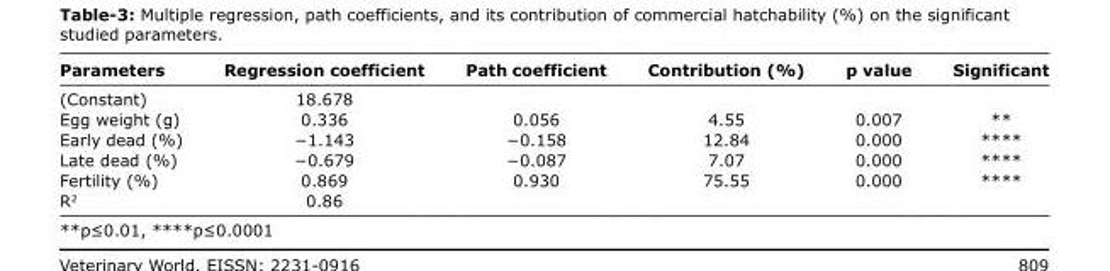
<table><thead><tr><td>Parameters</td><td>Regression coefficient</td><td>Path coefficient</td><td>Contribution (%)</td><td>p value</td><td>Significant</td></tr></thead><tbody><tr><td>(Constant)</td><td>18.678</td><td></td><td></td><td></td><td></td></tr><tr><td>Egg weight (g)</td><td>0.336</td><td>0.056</td><td>4.55</td><td>0.007</td><td>**</td></tr><tr><td>Early dead (%)</td><td>−1.143</td><td>−0.158</td><td>12.84</td><td>0.000</td><td>****</td></tr><tr><td>Late dead (%)</td><td>−0.679</td><td>−0.087</td><td>7.07</td><td>0.000</td><td>****</td></tr><tr><td>Fertility (%)</td><td>0.869</td><td>0.930</td><td>75.55</td><td>0.000</td><td>****</td></tr><tr><td>R<sup>2</sup></td><td>0.86</td><td></td><td></td><td></td><td></td></tr></tbody></table>